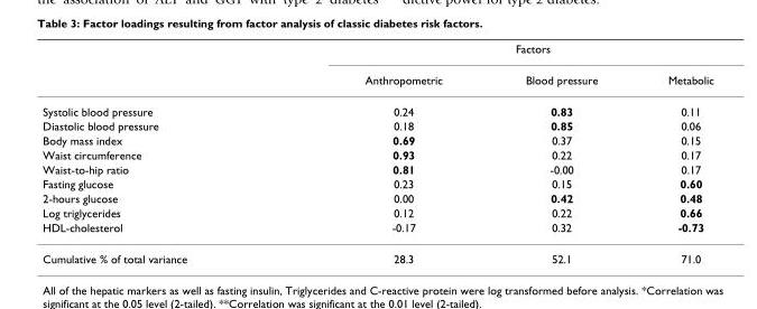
<table><thead><tr><td rowspan="2"></td><td colspan="3">Factors</td></tr><tr><td>Anthropometric</td><td>Blood pressure</td><td>Metabolic</td></tr></thead><tbody><tr><td>Systolic blood pressure</td><td>0.24</td><td>0.83</td><td>0.11</td></tr><tr><td>Diastolic blood pressure</td><td>0.18</td><td>0.85</td><td>0.06</td></tr><tr><td>Body mass index</td><td>0.69</td><td>0.37</td><td>0.15</td></tr><tr><td>Waist circumference</td><td>0.93</td><td>0.22</td><td>0.17</td></tr><tr><td>Waist-to-hip ratio</td><td>0.81</td><td>-0.00</td><td>0.17</td></tr><tr><td>Fasting glucose</td><td>0.23</td><td>0.15</td><td>0.60</td></tr><tr><td>2-hours glucose</td><td>0.00</td><td>0.42</td><td>0.48</td></tr><tr><td>Log triglycerides</td><td>0.12</td><td>0.22</td><td>0.66</td></tr><tr><td>HDL-cholesterol</td><td>-0.17</td><td>0.32</td><td>-0.73</td></tr><tr><td>Cumulative % of total variance</td><td>28.3</td><td>52.1</td><td>71.0</td></tr></tbody></table>